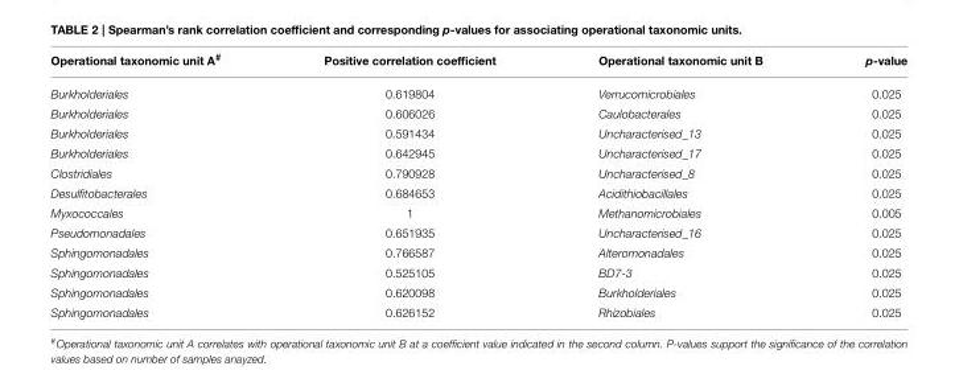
<table><thead><tr><td>Operational taxonomic unit A<sup>#</sup></td><td>Positive correlation coefficient</td><td>Operational taxonomic unit B</td><td>p-value</td></tr></thead><tbody><tr><td>Burkholderiales</td><td>0.619804</td><td>Verrucomicrobiales</td><td>0.025</td></tr><tr><td>Burkholderiales</td><td>0.606026</td><td>Caulobacterales</td><td>0.025</td></tr><tr><td>Burkholderiales</td><td>0.591434</td><td>Uncharacterised_13</td><td>0.025</td></tr><tr><td>Burkholderiales</td><td>0.642945</td><td>Uncharacterised_17</td><td>0.025</td></tr><tr><td>Clostridiales</td><td>0.790928</td><td>Uncharacterised_8</td><td>0.025</td></tr><tr><td>Desulfitobacterales</td><td>0.684653</td><td>Acidithiobacillales</td><td>0.025</td></tr><tr><td>Myxococcales</td><td>1</td><td>Methanomicrobiales</td><td>0.005</td></tr><tr><td>Pseudomonadales</td><td>0.651935</td><td>Uncharacterised_16</td><td>0.025</td></tr><tr><td>Sphingomonadales</td><td>0.766587</td><td>Alteromonadales</td><td>0.025</td></tr><tr><td>Sphingomonadales</td><td>0.525105</td><td>BD7-3</td><td>0.025</td></tr><tr><td>Sphingomonadales</td><td>0.620098</td><td>Burkholderiales</td><td>0.025</td></tr><tr><td>Sphingomonadales</td><td>0.626152</td><td>Rhizobiales</td><td>0.025</td></tr></tbody></table>